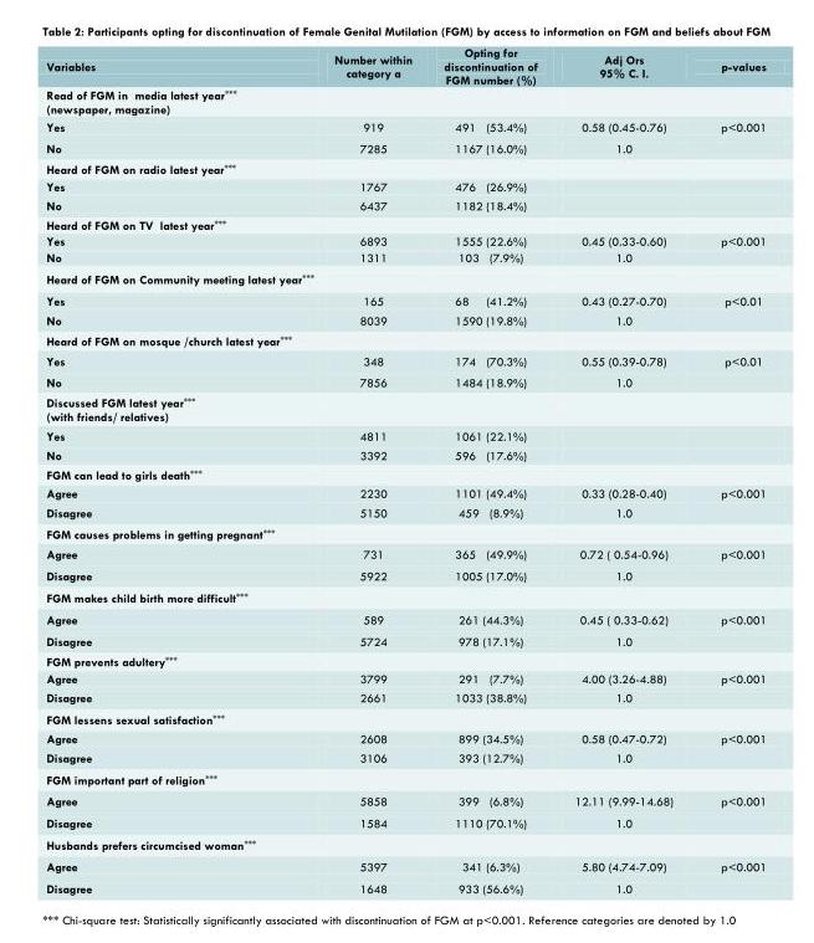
<table><thead><tr><td>Variables</td><td>Number within category a</td><td>Opting for discontinuation of FGM number (%)</td><td>Adj Ors 95% C. I.</td><td>p-values</td></tr></thead><tbody><tr><td colspan="5">Read of FGM in media latest year*** (newspaper, magazine)</td></tr><tr><td>Yes</td><td>919</td><td>491 (53.4%)</td><td>0.58 (0.45-0.76)</td><td>p&lt;0.001</td></tr><tr><td>No</td><td>7285</td><td>1167 (16.0%)</td><td>1.0</td><td></td></tr><tr><td colspan="5">Heard of FGM on radio latest year***</td></tr><tr><td>Yes</td><td>1767</td><td>476 (26.9%)</td><td></td><td></td></tr><tr><td>No</td><td>6437</td><td>1182 (18.4%)</td><td></td><td></td></tr><tr><td colspan="5">Heard of FGM on TV latest year***</td></tr><tr><td>Yes</td><td>6893</td><td>1555 (22.6%)</td><td>0.45 (0.33-0.60)</td><td>p&lt;0.001</td></tr><tr><td>No</td><td>1311</td><td>103 (7.9%)</td><td>1.0</td><td></td></tr><tr><td colspan="5">Heard of FGM on Community meeting latest year***</td></tr><tr><td>Yes</td><td>165</td><td>68 (41.2%)</td><td>0.43 (0.27-0.70)</td><td>p&lt;0.01</td></tr><tr><td>No</td><td>8039</td><td>1590 (19.8%)</td><td>1.0</td><td></td></tr><tr><td colspan="5">Heard of FGM on mosque /church latest year***</td></tr><tr><td>Yes</td><td>348</td><td>174 (70.3%)</td><td>0.55 (0.39-0.78)</td><td>p&lt;0.01</td></tr><tr><td>No</td><td>7856</td><td>1484 (18.9%)</td><td>1.0</td><td></td></tr><tr><td colspan="5">Discussed FGM latest year*** (with friends/ relatives)</td></tr><tr><td>Yes</td><td>4811</td><td>1061 (22.1%)</td><td></td><td></td></tr><tr><td>No</td><td>3392</td><td>596 (17.6%)</td><td></td><td></td></tr><tr><td colspan="5">FGM can lead to girls death***</td></tr><tr><td>Agree</td><td>2230</td><td>1101 (49.4%)</td><td>0.33 (0.28-0.40)</td><td>p&lt;0.001</td></tr><tr><td>Disagree</td><td>5150</td><td>459 (8.9%)</td><td>1.0</td><td></td></tr><tr><td colspan="5">FGM causes problems in getting pregnant***</td></tr><tr><td>Agree</td><td>731</td><td>365 (49.9%)</td><td>0.72 ( 0.54-0.96)</td><td>p&lt;0.001</td></tr><tr><td>Disagree</td><td>5922</td><td>1005 (17.0%)</td><td>1.0</td><td></td></tr><tr><td colspan="5">FGM makes child birth more difficult***</td></tr><tr><td>Agree</td><td>589</td><td>261 (44.3%)</td><td>0.45 ( 0.33-0.62)</td><td>p&lt;0.001</td></tr><tr><td>Disagree</td><td>5724</td><td>978 (17.1%)</td><td>1.0</td><td></td></tr><tr><td colspan="5">FGM prevents adultery***</td></tr><tr><td>Agree</td><td>3799</td><td>291 (7.7%)</td><td>4.00 (3.26-4.88)</td><td>p&lt;0.001</td></tr><tr><td>Disagree</td><td>2661</td><td>1033 (38.8%)</td><td>1.0</td><td></td></tr><tr><td colspan="5">FGM lessens sexual satisfaction***</td></tr><tr><td>Agree</td><td>2608</td><td>899 (34.5%)</td><td>0.58 (0.47-0.72)</td><td>p&lt;0.001</td></tr><tr><td>Disagree</td><td>3106</td><td>393 (12.7%)</td><td>1.0</td><td></td></tr><tr><td colspan="5">FGM important part of religion***</td></tr><tr><td>Agree</td><td>5858</td><td>399 (6.8%)</td><td>12.11 (9.99-14.68)</td><td>p&lt;0.001</td></tr><tr><td>Disagree</td><td>1584</td><td>1110 (70.1%)</td><td>1.0</td><td></td></tr><tr><td colspan="5">Husbands prefers circumcised woman***</td></tr><tr><td>Agree</td><td>5397</td><td>341 (6.3%)</td><td>5.80 (4.74-7.09)</td><td>p&lt;0.001</td></tr><tr><td>Disagree</td><td>1648</td><td>933 (56.6%)</td><td>1.0</td><td></td></tr></tbody></table>